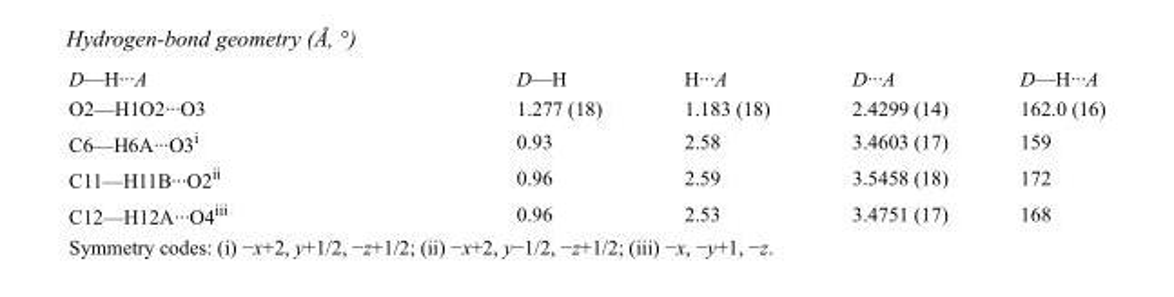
<table><tbody><tr><td>D—H···A</td><td>D—H</td><td>H···A</td><td>D···A</td><td>D—H···A</td></tr><tr><td>O2—H1O2···O3</td><td>1.277 (18)</td><td>1.183 (18)</td><td>2.4299 (14)</td><td>162.0 (16)</td></tr><tr><td>C6—H6A···O3<sup>i</sup></td><td>0.93</td><td>2.58</td><td>3.4603 (17)</td><td>159</td></tr><tr><td>C11—H11B···O2<sup>ii</sup></td><td>0.96</td><td>2.59</td><td>3.5458 (18)</td><td>172</td></tr><tr><td>C12—H12A···O4<sup>iii</sup></td><td>0.96</td><td>2.53</td><td>3.4751 (17)</td><td>168</td></tr></tbody></table>